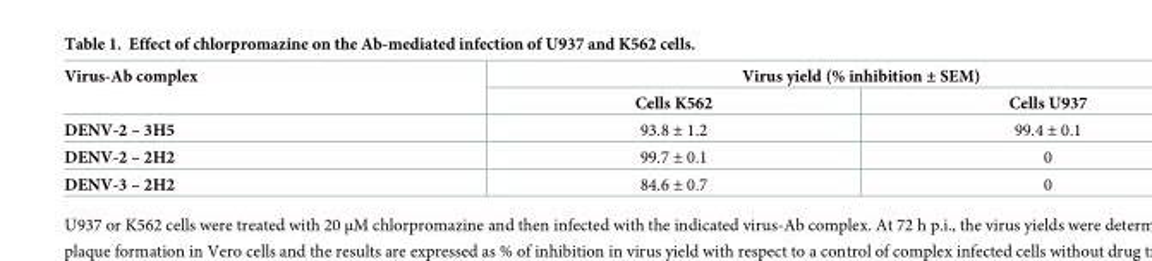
<table><thead><tr><td rowspan="2">Virus-Ab complex</td><td colspan="2">Virus yield (% inhibition ± SEM)</td></tr><tr><td>Cells K562</td><td>Cells U937</td></tr></thead><tbody><tr><td>DENV-2 – 3H5</td><td>93.8 ± 1.2</td><td>99.4 ± 0.1</td></tr><tr><td>DENV-2 – 2H2</td><td>99.7 ± 0.1</td><td>0</td></tr><tr><td>DENV-3 – 2H2</td><td>84.6 ± 0.7</td><td>0</td></tr></tbody></table>